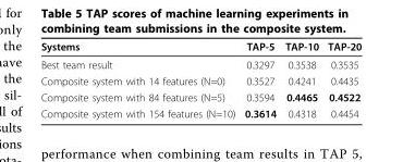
<table><thead><tr><td>Systems</td><td>TAP-5</td><td>TAP-10</td><td>TAP-20</td></tr></thead><tbody><tr><td>Best team result</td><td>0.3297</td><td>0.3538</td><td>0.3535</td></tr><tr><td>Composite system with 14 features (N=0)</td><td>0.3527</td><td>0.4241</td><td>0.4435</td></tr><tr><td>Composite system with 84 features (N=5)</td><td>0.3594</td><td>0.4465</td><td>0.4522</td></tr><tr><td>Composite system with 154 features (N=10)</td><td>0.3614</td><td>0.4318</td><td>0.4454</td></tr></tbody></table>